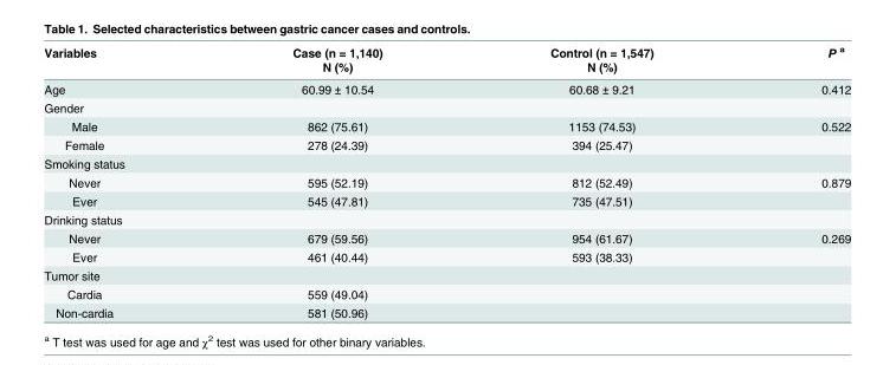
<table><thead><tr><td rowspan="2">Variables</td><td rowspan="2">Case (n = 1,140) N (%)</td><td rowspan="2">Control (n = 1,547) N (%)</td><td rowspan="2">P <sup>a</sup></td></tr><tr></tr></thead><tbody><tr><td>Age</td><td>60.99 ± 10.54</td><td>60.68 ± 9.21</td><td>0.412</td></tr><tr><td colspan="4">Gender</td></tr><tr><td>Male</td><td>862 (75.61)</td><td>1153 (74.53)</td><td>0.522</td></tr><tr><td>Female</td><td>278 (24.39)</td><td>394 (25.47)</td><td></td></tr><tr><td colspan="4">Smoking status</td></tr><tr><td>Never</td><td>595 (52.19)</td><td>812 (52.49)</td><td>0.879</td></tr><tr><td>Ever</td><td>545 (47.81)</td><td>735 (47.51)</td><td></td></tr><tr><td colspan="4">Drinking status</td></tr><tr><td>Never</td><td>679 (59.56)</td><td>954 (61.67)</td><td>0.269</td></tr><tr><td>Ever</td><td>461 (40.44)</td><td>593 (38.33)</td><td></td></tr><tr><td colspan="4">Tumor site</td></tr><tr><td>Cardia</td><td>559 (49.04)</td><td></td><td></td></tr><tr><td>Non-cardia</td><td>581 (50.96)</td><td></td><td></td></tr></tbody></table>